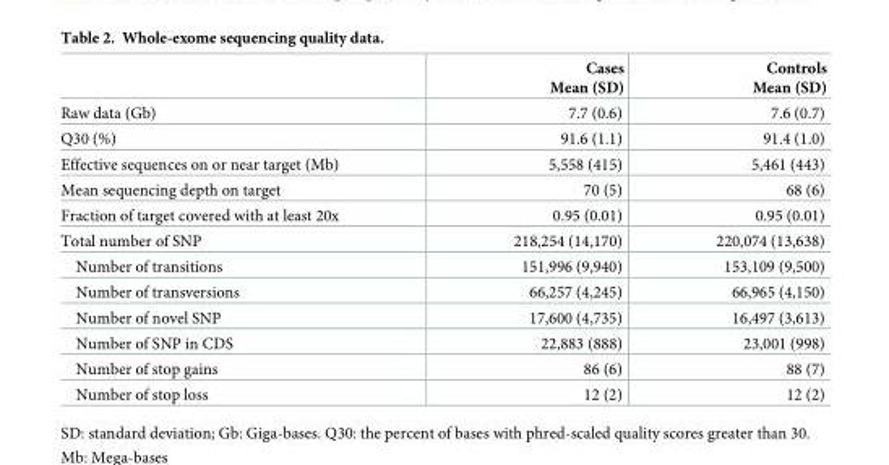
<table><thead><tr><td></td><td>Cases Mean (SD)</td><td>Controls Mean (SD)</td></tr></thead><tbody><tr><td>Raw data (Gb)</td><td>7.7 (0.6)</td><td>7.6 (0.7)</td></tr><tr><td>Q30 (%)</td><td>91.6 (1.1)</td><td>91.4 (1.0)</td></tr><tr><td>Effective sequences on or near target (Mb)</td><td>5,558 (415)</td><td>5,461 (443)</td></tr><tr><td>Mean sequencing depth on target</td><td>70 (5)</td><td>68 (6)</td></tr><tr><td>Fraction of target covered with at least 20x</td><td>0.95 (0.01)</td><td>0.95 (0.01)</td></tr><tr><td>Total number of SNP</td><td>218,254 (14,170)</td><td>220,074 (13,638)</td></tr><tr><td>Number of transitions</td><td>151,996 (9,940)</td><td>153,109 (9,500)</td></tr><tr><td>Number of transversions</td><td>66,257 (4,245)</td><td>66,965 (4,150)</td></tr><tr><td>Number of novel SNP</td><td>17,600 (4,735)</td><td>16,497 (3,613)</td></tr><tr><td>Number of SNP in CDS</td><td>22,883 (888)</td><td>23,001 (998)</td></tr><tr><td>Number of stop gains</td><td>86 (6)</td><td>88 (7)</td></tr><tr><td>Number of stop loss</td><td>12 (2)</td><td>12 (2)</td></tr></tbody></table>